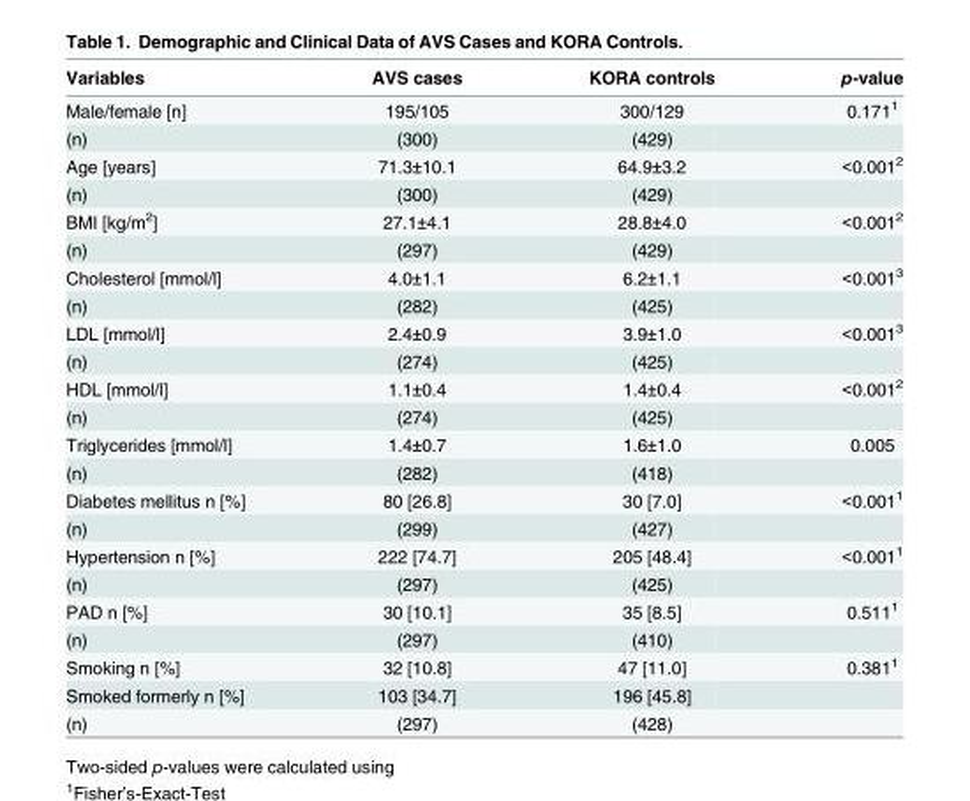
<table><thead><tr><td>Variables</td><td>AVS cases</td><td>KORA controls</td><td>p-value</td></tr></thead><tbody><tr><td>Male/female [n]</td><td>195/105</td><td>300/129</td><td>0.171<sup>1</sup></td></tr><tr><td>(n)</td><td>(300)</td><td>(429)</td><td></td></tr><tr><td>Age [years]</td><td>71.3±10.1</td><td>64.9±3.2</td><td>&lt;0.001<sup>2</sup></td></tr><tr><td>(n)</td><td>(300)</td><td>(429)</td><td></td></tr><tr><td>BMI [kg/m<sup>2</sup>]</td><td>27.1±4.1</td><td>28.8±4.0</td><td>&lt;0.001<sup>2</sup></td></tr><tr><td>(n)</td><td>(297)</td><td>(429)</td><td></td></tr><tr><td>Cholesterol [mmol/l]</td><td>4.0±1.1</td><td>6.2±1.1</td><td>&lt;0.001<sup>3</sup></td></tr><tr><td>(n)</td><td>(282)</td><td>(425)</td><td></td></tr><tr><td>LDL [mmol/l]</td><td>2.4±0.9</td><td>3.9±1.0</td><td>&lt;0.001<sup>3</sup></td></tr><tr><td>(n)</td><td>(274)</td><td>(425)</td><td></td></tr><tr><td>HDL [mmol/l]</td><td>1.1±0.4</td><td>1.4±0.4</td><td>&lt;0.001<sup>2</sup></td></tr><tr><td>(n)</td><td>(274)</td><td>(425)</td><td></td></tr><tr><td>Triglycerides [mmol/l]</td><td>1.4±0.7</td><td>1.6±1.0</td><td>0.005</td></tr><tr><td>(n)</td><td>(282)</td><td>(418)</td><td></td></tr><tr><td>Diabetes mellitus n [%]</td><td>80 [26.8]</td><td>30 [7.0]</td><td>&lt;0.001<sup>1</sup></td></tr><tr><td>(n)</td><td>(299)</td><td>(427)</td><td></td></tr><tr><td>Hypertension n [%]</td><td>222 [74.7]</td><td>205 [48.4]</td><td>&lt;0.001<sup>1</sup></td></tr><tr><td>(n)</td><td>(297)</td><td>(425)</td><td></td></tr><tr><td>PAD n [%]</td><td>30 [10.1]</td><td>35 [8.5]</td><td>0.511<sup>1</sup></td></tr><tr><td>(n)</td><td>(297)</td><td>(410)</td><td></td></tr><tr><td>Smoking n [%]</td><td>32 [10.8]</td><td>47 [11.0]</td><td>0.381<sup>1</sup></td></tr><tr><td>Smoked formerly n [%]</td><td>103 [34.7]</td><td>196 [45.8]</td><td></td></tr><tr><td>(n)</td><td>(297)</td><td>(428)</td><td></td></tr></tbody></table>